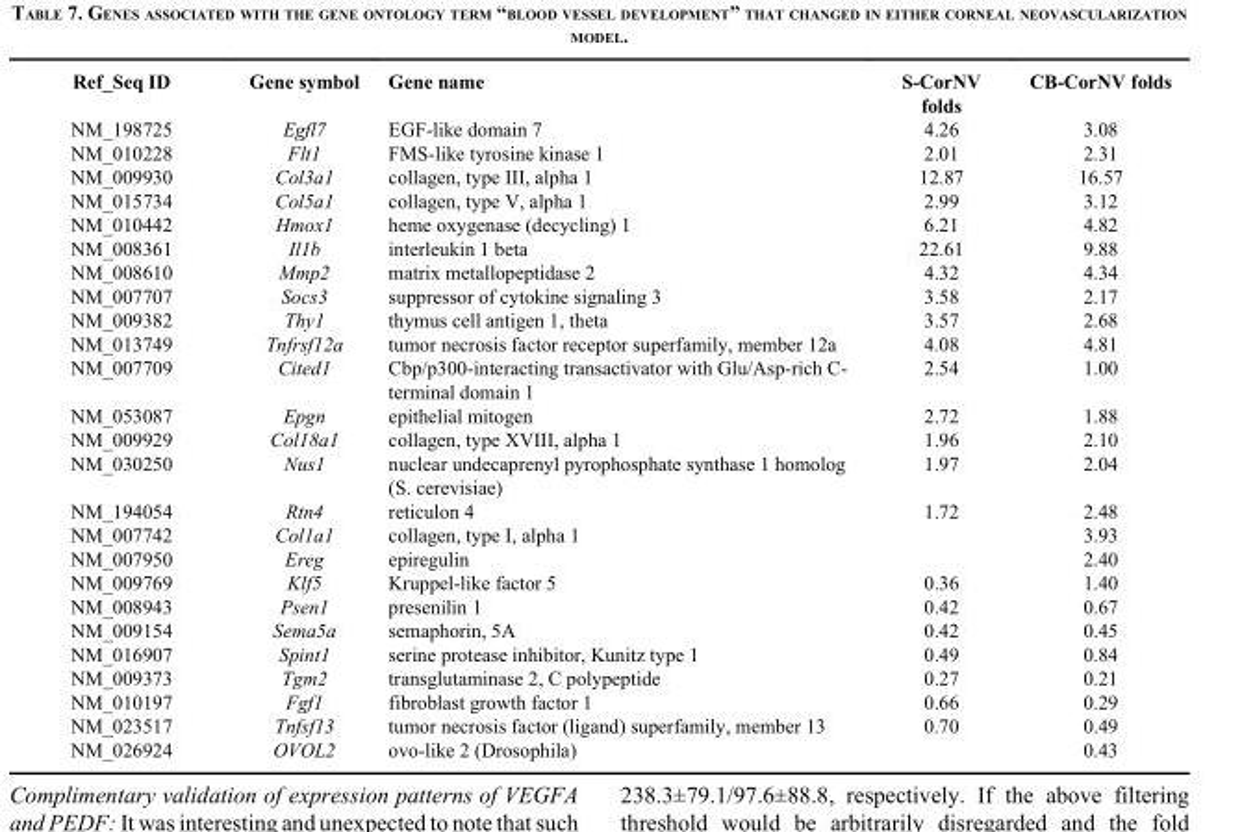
<table><thead><tr><td>Ref_Seq ID</td><td>Gene symbol</td><td>Gene name</td><td>S-CorNV folds</td><td>CB-CorNV folds</td></tr></thead><tbody><tr><td>NM_198725</td><td>Egfl7</td><td>EGF-like domain 7</td><td>4.26</td><td>3.08</td></tr><tr><td>NM_010228</td><td>Flt1</td><td>FMS-like tyrosine kinase 1</td><td>2.01</td><td>2.31</td></tr><tr><td>NM_009930</td><td>Col3a1</td><td>collagen, type III, alpha 1</td><td>12.87</td><td>16.57</td></tr><tr><td>NM_015734</td><td>Col5a1</td><td>collagen, type V, alpha 1</td><td>2.99</td><td>3.12</td></tr><tr><td>NM_010442</td><td>Hmox1</td><td>heme oxygenase (decycling) 1</td><td>6.21</td><td>4.82</td></tr><tr><td>NM_008361</td><td>Il1b</td><td>interleukin 1 beta</td><td>22.61</td><td>9.88</td></tr><tr><td>NM_008610</td><td>Mmp2</td><td>matrix metallopeptidase 2</td><td>4.32</td><td>4.34</td></tr><tr><td>NM_007707</td><td>Socs3</td><td>suppressor of cytokine signaling 3</td><td>3.58</td><td>2.17</td></tr><tr><td>NM_009382</td><td>Thy1</td><td>thymus cell antigen 1, theta</td><td>3.57</td><td>2.68</td></tr><tr><td>NM_013749</td><td>Tnfrsf12a</td><td>tumor necrosis factor receptor superfamily, member 12a</td><td>4.08</td><td>4.81</td></tr><tr><td>NM_007709</td><td>Cited1</td><td>Cbp/p300-interacting transactivator with Glu/Asp-rich C- terminal domain 1</td><td>2.54</td><td>1.00</td></tr><tr><td>NM_053087</td><td>Epgn</td><td>epithelial mitogen</td><td>2.72</td><td>1.88</td></tr><tr><td>NM_009929</td><td>Col18a1</td><td>collagen, type XVIII, alpha 1</td><td>1.96</td><td>2.10</td></tr><tr><td>NM_030250</td><td>Nus1</td><td>nuclear undecaprenyl pyrophosphate synthase 1 homolog (S. cerevisiae)</td><td>1.97</td><td>2.04</td></tr><tr><td>NM_194054</td><td>Rtn4</td><td>reticulon 4</td><td>1.72</td><td>2.48</td></tr><tr><td>NM_007742</td><td>Col1a1</td><td>collagen, type I, alpha 1</td><td></td><td>3.93</td></tr><tr><td>NM_007950</td><td>Ereg</td><td>epiregulin</td><td></td><td>2.40</td></tr><tr><td>NM_009769</td><td>Klf5</td><td>Kruppel-like factor 5</td><td>0.36</td><td>1.40</td></tr><tr><td>NM_008943</td><td>Psen1</td><td>presenilin 1</td><td>0.42</td><td>0.67</td></tr><tr><td>NM_009154</td><td>Sema5a</td><td>semaphorin, 5A</td><td>0.42</td><td>0.45</td></tr><tr><td>NM_016907</td><td>Spint1</td><td>serine protease inhibitor, Kunitz type 1</td><td>0.49</td><td>0.84</td></tr><tr><td>NM_009373</td><td>Tgm2</td><td>transglutaminase 2, C polypeptide</td><td>0.27</td><td>0.21</td></tr><tr><td>NM_010197</td><td>Fgf1</td><td>fibroblast growth factor 1</td><td>0.66</td><td>0.29</td></tr><tr><td>NM_023517</td><td>Tnfsf13</td><td>tumor necrosis factor (ligand) superfamily, member 13</td><td>0.70</td><td>0.49</td></tr><tr><td>NM_026924</td><td>OVOL2</td><td>ovo-like 2 (Drosophila)</td><td></td><td>0.43</td></tr></tbody></table>